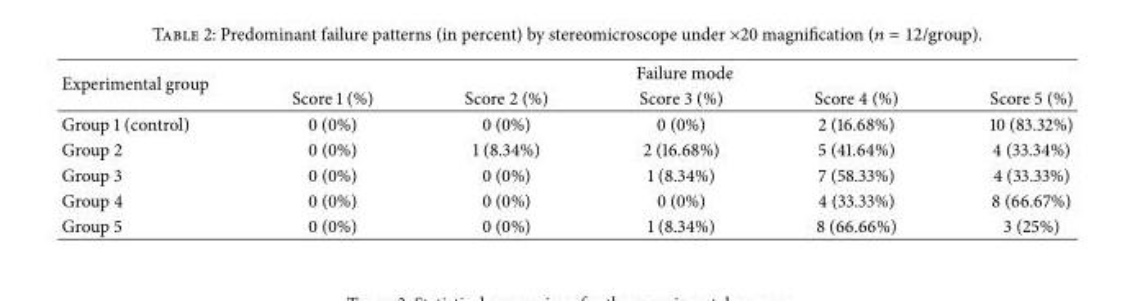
<table><thead><tr><td rowspan="2">Experimental group</td><td colspan="5">Failure mode</td></tr><tr><td>Score 1 (%)</td><td>Score 2 (%)</td><td>Score 3 (%)</td><td>Score 4 (%)</td><td>Score 5 (%)</td></tr></thead><tbody><tr><td>Group 1 (control)</td><td>0 (0%)</td><td>0 (0%)</td><td>0 (0%)</td><td>2 (16.68%)</td><td>10 (83.32%)</td></tr><tr><td>Group 2</td><td>0 (0%)</td><td>1 (8.34%)</td><td>2 (16.68%)</td><td>5 (41.64%)</td><td>4 (33.34%)</td></tr><tr><td>Group 3</td><td>0 (0%)</td><td>0 (0%)</td><td>1 (8.34%)</td><td>7 (58.33%)</td><td>4 (33.33%)</td></tr><tr><td>Group 4</td><td>0 (0%)</td><td>0 (0%)</td><td>0 (0%)</td><td>4 (33.33%)</td><td>8 (66.67%)</td></tr><tr><td>Group 5</td><td>0 (0%)</td><td>0 (0%)</td><td>1 (8.34%)</td><td>8 (66.66%)</td><td>3 (25%)</td></tr></tbody></table>